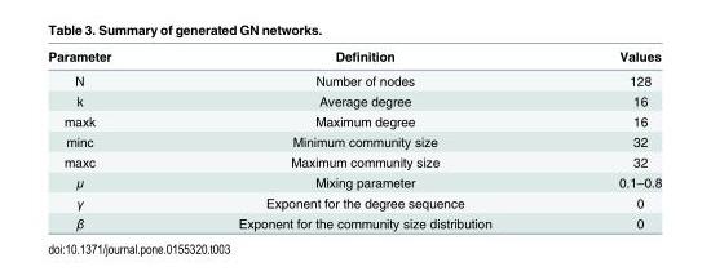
<table><thead><tr><td>Parameter</td><td>Definition</td><td>Values</td></tr></thead><tbody><tr><td>N</td><td>Number of nodes</td><td>128</td></tr><tr><td>k</td><td>Average degree</td><td>16</td></tr><tr><td>maxk</td><td>Maximum degree</td><td>16</td></tr><tr><td>minc</td><td>Minimum community size</td><td>32</td></tr><tr><td>maxc</td><td>Maximum community size</td><td>32</td></tr><tr><td>μ</td><td>Mixing parameter</td><td>0.1–0.8</td></tr><tr><td>γ</td><td>Exponent for the degree sequence</td><td>0</td></tr><tr><td>β</td><td>Exponent for the community size distribution</td><td>0</td></tr></tbody></table>